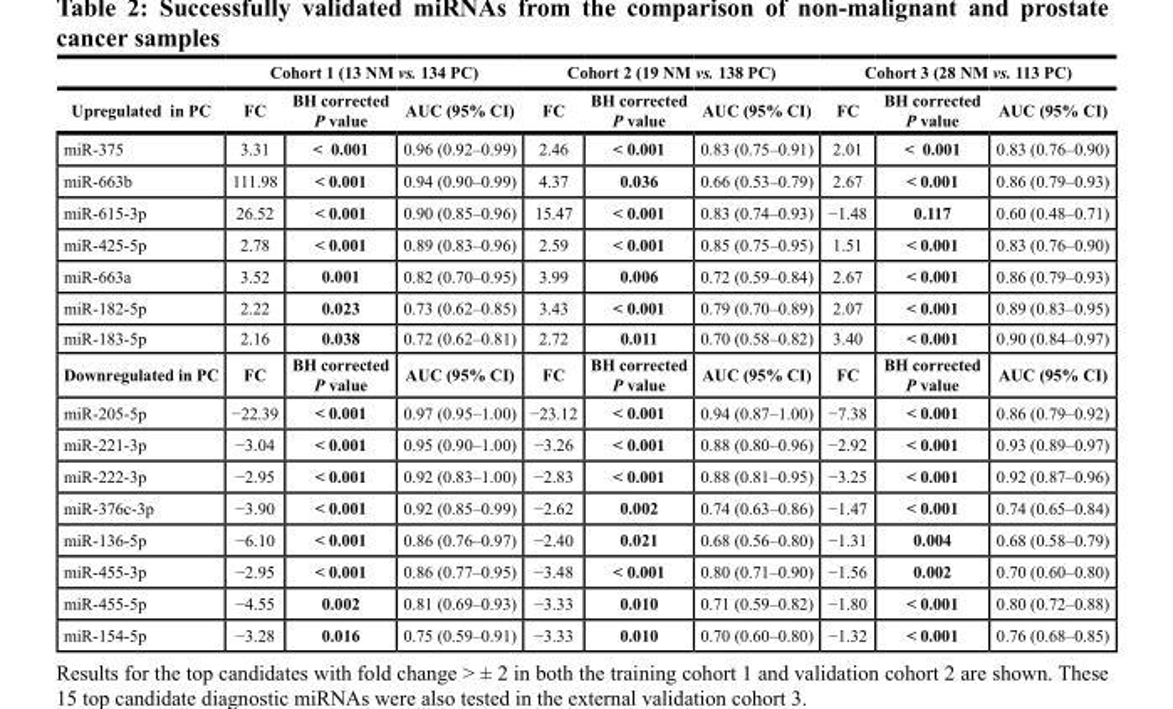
<table><thead><tr><td rowspan="2">Upregulated in PC</td><td colspan="3">Cohort 1 (13 NM vs. 134 PC)</td><td colspan="3">Cohort 2 (19 NM vs. 138 PC)</td><td colspan="3">Cohort 3 (28 NM vs. 113 PC)</td></tr><tr><td>FC</td><td>BH corrected P value</td><td>AUC (95% CI)</td><td>FC</td><td>BH corrected P value</td><td>AUC (95% CI)</td><td>FC</td><td>BH corrected P value</td><td>AUC (95% CI)</td></tr></thead><tbody><tr><td>miR-375</td><td>3.31</td><td>&lt; 0.001</td><td>0.96 (0.92–0.99)</td><td>2.46</td><td>&lt; 0.001</td><td>0.83 (0.75–0.91)</td><td>2.01</td><td>&lt; 0.001</td><td>0.83 (0.76–0.90)</td></tr><tr><td>miR-663b</td><td>111.98</td><td>&lt; 0.001</td><td>0.94 (0.90–0.99)</td><td>4.37</td><td>0.036</td><td>0.66 (0.53–0.79)</td><td>2.67</td><td>&lt; 0.001</td><td>0.86 (0.79–0.93)</td></tr><tr><td>miR-615-3p</td><td>26.52</td><td>&lt; 0.001</td><td>0.90 (0.85–0.96)</td><td>15.47</td><td>&lt; 0.001</td><td>0.83 (0.74–0.93)</td><td>−1.48</td><td>0.117</td><td>0.60 (0.48–0.71)</td></tr><tr><td>miR-425-5p</td><td>2.78</td><td>&lt; 0.001</td><td>0.89 (0.83–0.96)</td><td>2.59</td><td>&lt; 0.001</td><td>0.85 (0.75–0.95)</td><td>1.51</td><td>&lt; 0.001</td><td>0.83 (0.76–0.90)</td></tr><tr><td>miR-663a</td><td>3.52</td><td>0.001</td><td>0.82 (0.70–0.95)</td><td>3.99</td><td>0.006</td><td>0.72 (0.59–0.84)</td><td>2.67</td><td>&lt; 0.001</td><td>0.86 (0.79–0.93)</td></tr><tr><td>miR-182-5p</td><td>2.22</td><td>0.023</td><td>0.73 (0.62–0.85)</td><td>3.43</td><td>&lt; 0.001</td><td>0.79 (0.70–0.89)</td><td>2.07</td><td>&lt; 0.001</td><td>0.89 (0.83–0.95)</td></tr><tr><td>miR-183-5p</td><td>2.16</td><td>0.038</td><td>0.72 (0.62–0.81)</td><td>2.72</td><td>0.011</td><td>0.70 (0.58–0.82)</td><td>3.40</td><td>&lt; 0.001</td><td>0.90 (0.84–0.97)</td></tr><tr><td>Downregulated in PC</td><td>FC</td><td>BH corrected P value</td><td>AUC (95% CI)</td><td>FC</td><td>BH corrected P value</td><td>AUC (95% CI)</td><td>FC</td><td>BH corrected P value</td><td>AUC (95% CI)</td></tr><tr><td>miR-205-5p</td><td>−22.39</td><td>&lt; 0.001</td><td>0.97 (0.95–1.00)</td><td>−23.12</td><td>&lt; 0.001</td><td>0.94 (0.87–1.00)</td><td>−7.38</td><td>&lt; 0.001</td><td>0.86 (0.79–0.92)</td></tr><tr><td>miR-221-3p</td><td>−3.04</td><td>&lt; 0.001</td><td>0.95 (0.90–1.00)</td><td>−3.26</td><td>&lt; 0.001</td><td>0.88 (0.80–0.96)</td><td>−2.92</td><td>&lt; 0.001</td><td>0.93 (0.89–0.97)</td></tr><tr><td>miR-222-3p</td><td>−2.95</td><td>&lt; 0.001</td><td>0.92 (0.83–1.00)</td><td>−2.83</td><td>&lt; 0.001</td><td>0.88 (0.81–0.95)</td><td>−3.25</td><td>&lt; 0.001</td><td>0.92 (0.87–0.96)</td></tr><tr><td>miR-376c-3p</td><td>−3.90</td><td>&lt; 0.001</td><td>0.92 (0.85–0.99)</td><td>−2.62</td><td>0.002</td><td>0.74 (0.63–0.86)</td><td>−1.47</td><td>&lt; 0.001</td><td>0.74 (0.65–0.84)</td></tr><tr><td>miR-136-5p</td><td>−6.10</td><td>&lt; 0.001</td><td>0.86 (0.76–0.97)</td><td>−2.40</td><td>0.021</td><td>0.68 (0.56–0.80)</td><td>−1.31</td><td>0.004</td><td>0.68 (0.58–0.79)</td></tr><tr><td>miR-455-3p</td><td>−2.95</td><td>&lt; 0.001</td><td>0.86 (0.77–0.95)</td><td>−3.48</td><td>&lt; 0.001</td><td>0.80 (0.71–0.90)</td><td>−1.56</td><td>0.002</td><td>0.70 (0.60–0.80)</td></tr><tr><td>miR-455-5p</td><td>−4.55</td><td>0.002</td><td>0.81 (0.69–0.93)</td><td>−3.33</td><td>0.010</td><td>0.71 (0.59–0.82)</td><td>−1.80</td><td>&lt; 0.001</td><td>0.80 (0.72–0.88)</td></tr><tr><td>miR-154-5p</td><td>−3.28</td><td>0.016</td><td>0.75 (0.59–0.91)</td><td>−3.33</td><td>0.010</td><td>0.70 (0.60–0.80)</td><td>−1.32</td><td>&lt; 0.001</td><td>0.76 (0.68–0.85)</td></tr></tbody></table>